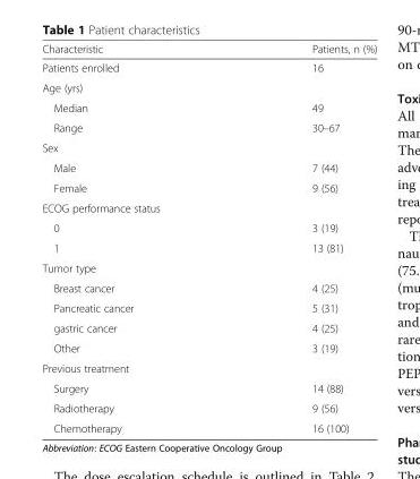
<table><thead><tr><td>Characteristic</td><td>Patients, n (%)</td></tr></thead><tbody><tr><td>Patients enrolled</td><td>16</td></tr><tr><td colspan="2">Age (yrs)</td></tr><tr><td>Median</td><td>49</td></tr><tr><td>Range</td><td>30–67</td></tr><tr><td colspan="2">Sex</td></tr><tr><td>Male</td><td>7 (44)</td></tr><tr><td>Female</td><td>9 (56)</td></tr><tr><td colspan="2">ECOG performance status</td></tr><tr><td>0</td><td>3 (19)</td></tr><tr><td>1</td><td>13 (81)</td></tr><tr><td colspan="2">Tumor type</td></tr><tr><td>Breast cancer</td><td>4 (25)</td></tr><tr><td>Pancreatic cancer</td><td>5 (31)</td></tr><tr><td>gastric cancer</td><td>4 (25)</td></tr><tr><td>Other</td><td>3 (19)</td></tr><tr><td colspan="2">Previous treatment</td></tr><tr><td>Surgery</td><td>14 (88)</td></tr><tr><td>Radiotherapy</td><td>9 (56)</td></tr><tr><td>Chemotherapy</td><td>16 (100)</td></tr></tbody></table>